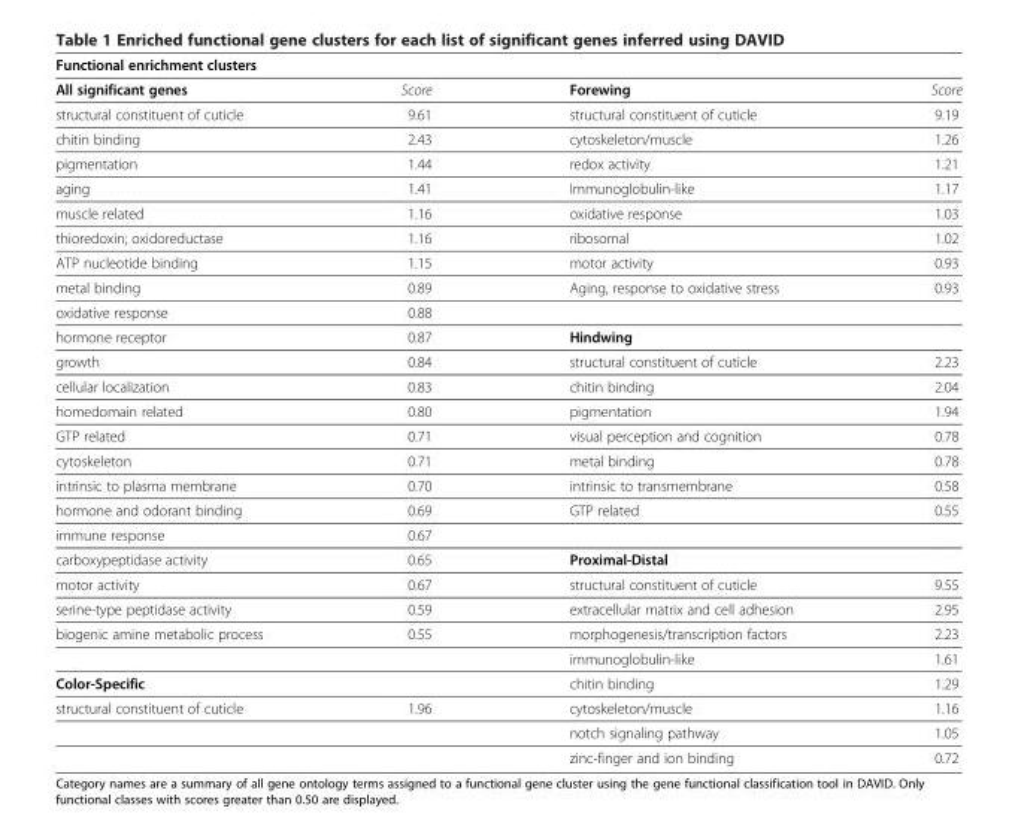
<table><thead><tr><td colspan="4">Functional enrichment clusters</td></tr><tr><td>All significant genes</td><td>Score</td><td>Forewing</td><td>Score</td></tr></thead><tbody><tr><td>structural constituent of cuticle</td><td>9.61</td><td>structural constituent of cuticle</td><td>9.19</td></tr><tr><td>chitin binding</td><td>2.43</td><td>cytoskeleton/muscle</td><td>1.26</td></tr><tr><td>pigmentation</td><td>1.44</td><td>redox activity</td><td>1.21</td></tr><tr><td>aging</td><td>1.41</td><td>Immunoglobulin-like</td><td>1.17</td></tr><tr><td>muscle related</td><td>1.16</td><td>oxidative response</td><td>1.03</td></tr><tr><td>thioredoxin; oxidoreductase</td><td>1.16</td><td>ribosomal</td><td>1.02</td></tr><tr><td>ATP nucleotide binding</td><td>1.15</td><td>motor activity</td><td>0.93</td></tr><tr><td>metal binding</td><td>0.89</td><td>Aging, response to oxidative stress</td><td>0.93</td></tr><tr><td>oxidative response</td><td>0.88</td><td></td><td></td></tr><tr><td>hormone receptor</td><td>0.87</td><td>Hindwing</td><td></td></tr><tr><td>growth</td><td>0.84</td><td>structural constituent of cuticle</td><td>2.23</td></tr><tr><td>cellular localization</td><td>0.83</td><td>chitin binding</td><td>2.04</td></tr><tr><td>homedomain related</td><td>0.80</td><td>pigmentation</td><td>1.94</td></tr><tr><td>GTP related</td><td>0.71</td><td>visual perception and cognition</td><td>0.78</td></tr><tr><td>cytoskeleton</td><td>0.71</td><td>metal binding</td><td>0.78</td></tr><tr><td>intrinsic to plasma membrane</td><td>0.70</td><td>intrinsic to transmembrane</td><td>0.58</td></tr><tr><td>hormone and odorant binding</td><td>0.69</td><td>GTP related</td><td>0.55</td></tr><tr><td>immune response</td><td>0.67</td><td></td><td></td></tr><tr><td>carboxypeptidase activity</td><td>0.65</td><td>Proximal-Distal</td><td></td></tr><tr><td>motor activity</td><td>0.67</td><td>structural constituent of cuticle</td><td>9.55</td></tr><tr><td>serine-type peptidase activity</td><td>0.59</td><td>extracellular matrix and cell adhesion</td><td>2.95</td></tr><tr><td rowspan="2">biogenic amine metabolic process</td><td>0.55</td><td>morphogenesis/transcription factors</td><td>2.23</td></tr><tr><td></td><td>immunoglobulin-like</td><td>1.61</td></tr><tr><td>Color-Specific</td><td></td><td>chitin binding</td><td>1.29</td></tr><tr><td rowspan="3">structural constituent of cuticle</td><td>1.96</td><td>cytoskeleton/muscle</td><td>1.16</td></tr><tr><td></td><td>notch signaling pathway</td><td>1.05</td></tr><tr><td></td><td>zinc-finger and ion binding</td><td>0.72</td></tr></tbody></table>